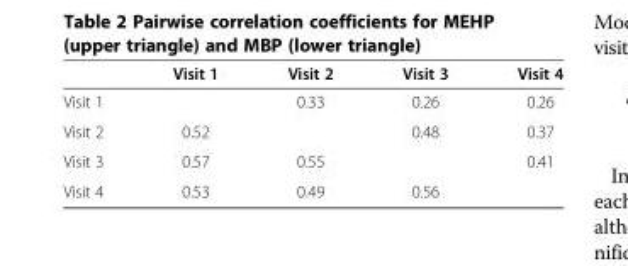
<table><thead><tr><td></td><td>Visit 1</td><td>Visit 2</td><td>Visit 3</td><td>Visit 4</td></tr></thead><tbody><tr><td>Visit 1</td><td></td><td>0.33</td><td>0.26</td><td>0.26</td></tr><tr><td>Visit 2</td><td>0.52</td><td></td><td>0.48</td><td>0.37</td></tr><tr><td>Visit 3</td><td>0.57</td><td>0.55</td><td></td><td>0.41</td></tr><tr><td>Visit 4</td><td>0.53</td><td>0.49</td><td>0.56</td><td></td></tr></tbody></table>